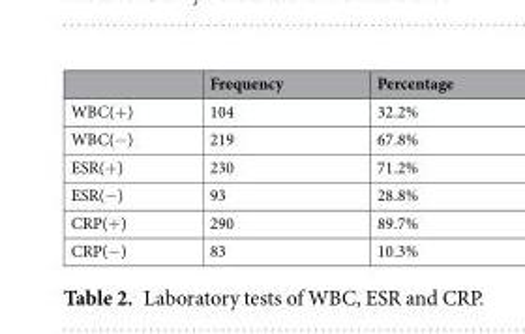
<table><thead><tr><td></td><td>Frequency</td><td>Percentage</td></tr></thead><tbody><tr><td>WBC(+)</td><td>104</td><td>32.2%</td></tr><tr><td>WBC(−)</td><td>219</td><td>67.8%</td></tr><tr><td>ESR(+)</td><td>230</td><td>71.2%</td></tr><tr><td>ESR(−)</td><td>93</td><td>28.8%</td></tr><tr><td>CRP(+)</td><td>290</td><td>89.7%</td></tr><tr><td>CRP(−)</td><td>83</td><td>10.3%</td></tr></tbody></table>